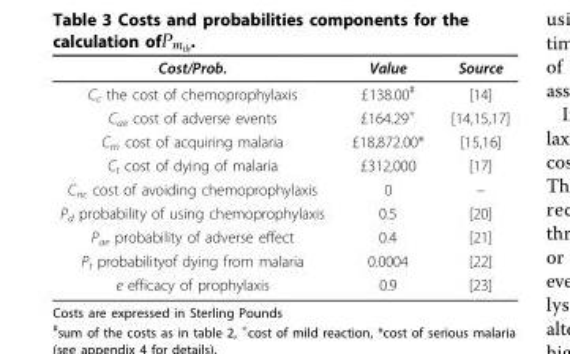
<table><thead><tr><td>Cost/Prob.</td><td>Value</td><td>Source</td></tr></thead><tbody><tr><td>C<sub>c</sub> the cost of chemoprophylaxis</td><td>£138.00<sup>#</sup></td><td>[14]</td></tr><tr><td>C<sub>ae</sub> cost of adverse events</td><td>£164.29<sup>+</sup></td><td>[14,15,17]</td></tr><tr><td>C<sub>m</sub> cost of acquiring malaria</td><td>£18,872.00*</td><td>[15,16]</td></tr><tr><td>C<sub>t</sub> cost of dying of malaria</td><td>£312,000</td><td>[17]</td></tr><tr><td>C<sub>nc</sub> cost of avoiding chemoprophylaxis</td><td>0</td><td>–</td></tr><tr><td>P<sub>d</sub> probability of using chemoprophylaxis</td><td>0.5</td><td>[20]</td></tr><tr><td>P<sub>ae</sub> probability of adverse effect</td><td>0.4</td><td>[21]</td></tr><tr><td>P<sub>t</sub> probabilityof dying from malaria</td><td>0.0004</td><td>[22]</td></tr><tr><td>e efficacy of prophylaxis</td><td>0.9</td><td>[23]</td></tr></tbody></table>